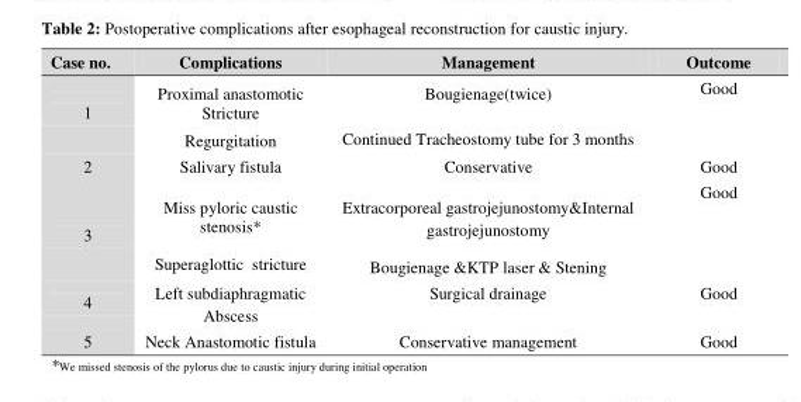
<table><thead><tr><td>Case no.</td><td>Complications</td><td>Management</td><td>Outcome</td></tr></thead><tbody><tr><td>1</td><td>Proximal anastomotic Stricture Regurgitation</td><td>Bougienage(twice) Continued Tracheostomy tube for 3 months</td><td>Good</td></tr><tr><td>2</td><td>Salivary fistula</td><td>Conservative</td><td>Good</td></tr><tr><td>3</td><td>Miss pyloric caustic stenosis* Superaglottic stricture</td><td>Extracorporeal gastrojejunostomy&amp;Internal gastrojejunostomy Bougienage &amp;KTP laser &amp; Stening</td><td>Good</td></tr><tr><td>4</td><td>Left subdiaphragmatic Abscess</td><td>Surgical drainage</td><td>Good</td></tr><tr><td>5</td><td>Neck Anastomotic fistula</td><td>Conservative management</td><td>Good</td></tr></tbody></table>